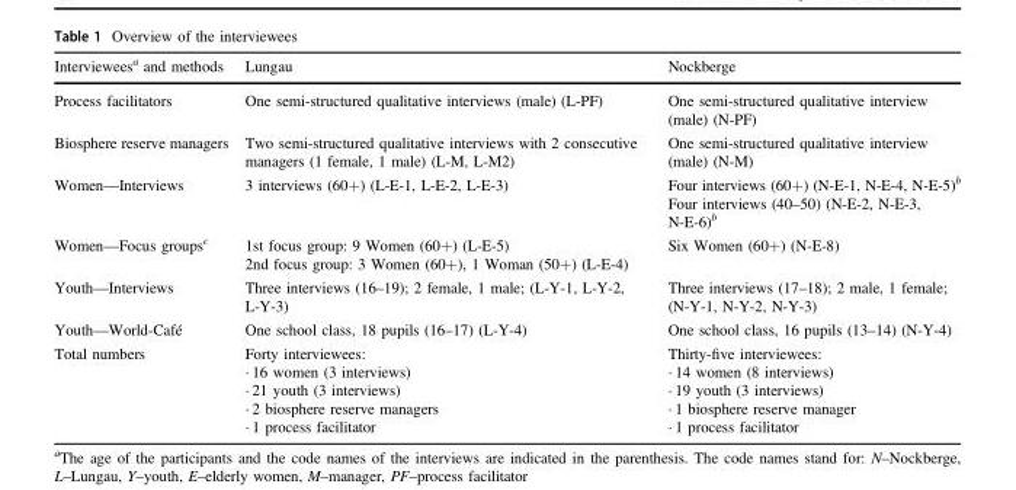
<table><thead><tr><td>Interviewees<sup>a</sup> and methods</td><td>Lungau</td><td>Nockberge</td></tr></thead><tbody><tr><td>Process facilitators</td><td>One semi-structured qualitative interviews (male) (L-PF)</td><td>One semi-structured qualitative interview (male) (N-PF)</td></tr><tr><td>Biosphere reserve managers</td><td>Two semi-structured qualitative interviews with 2 consecutive managers (1 female, 1 male) (L-M, L-M2)</td><td>One semi-structured qualitative interview (male) (N-M)</td></tr><tr><td>Women—Interviews</td><td>3 interviews (60+) (L-E-1, L-E-2, L-E-3)</td><td>Four interviews (60+) (N-E-1, N-E-4, N-E-5)<sup>b</sup> Four interviews (40–50) (N-E-2, N-E-3, N-E-6)<sup>b</sup></td></tr><tr><td>Women—Focus groups<sup>c</sup></td><td>1st focus group: 9 Women (60+) (L-E-5) 2nd focus group: 3 Women (60+), 1 Woman (50+) (L-E-4)</td><td>Six Women (60+) (N-E-8)</td></tr><tr><td>Youth—Interviews</td><td>Three interviews (16–19); 2 female, 1 male; (L-Y-1, L-Y-2, L-Y-3)</td><td>Three interviews (17–18); 2 male, 1 female; (N-Y-1, N-Y-2, N-Y-3)</td></tr><tr><td>Youth—World-Café</td><td>One school class, 18 pupils (16–17) (L-Y-4)</td><td>One school class, 16 pupils (13–14) (N-Y-4)</td></tr><tr><td>Total numbers</td><td>Forty interviewees: ∙ 16 women (3 interviews) ∙ 21 youth (3 interviews) ∙ 2 biosphere reserve managers ∙ 1 process facilitator</td><td>Thirty-five interviewees: ∙ 14 women (8 interviews) ∙ 19 youth (3 interviews) ∙ 1 biosphere reserve manager ∙ 1 process facilitator</td></tr></tbody></table>